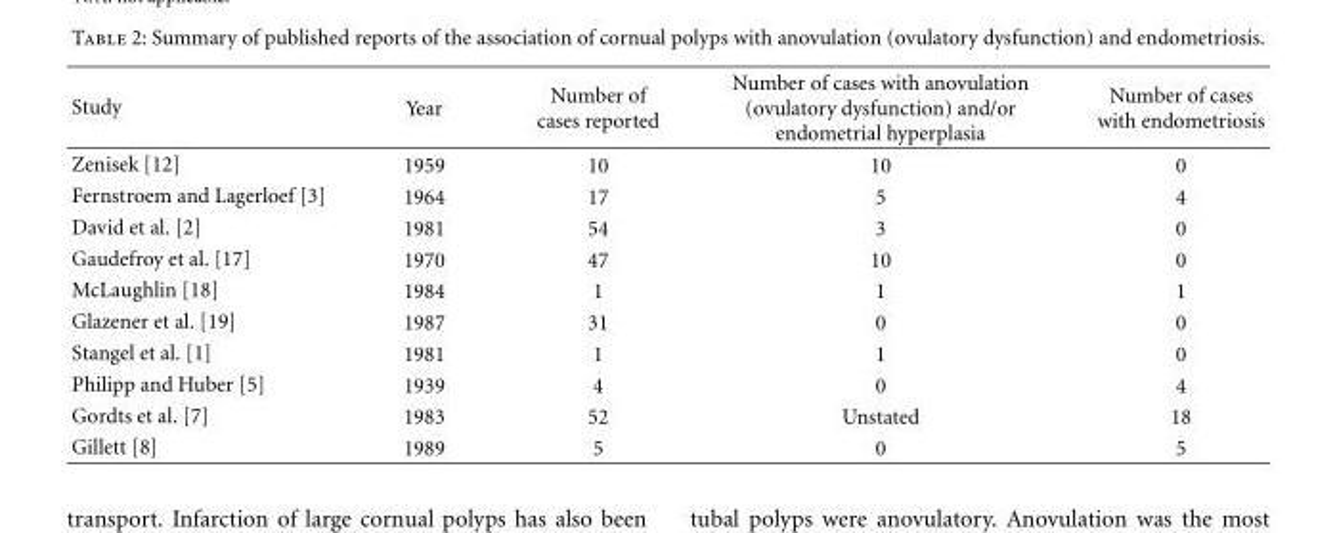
<table><thead><tr><td>Study</td><td>Year</td><td>Number of cases reported</td><td>Number of cases with anovulation (ovulatory dysfunction) and/or endometrial hyperplasia</td><td>Number of cases with endometriosis</td></tr></thead><tbody><tr><td>Zenisek [12]</td><td>1959</td><td>10</td><td>10</td><td>0</td></tr><tr><td>Fernstroem and Lagerloef [3]</td><td>1964</td><td>17</td><td>5</td><td>4</td></tr><tr><td>David et al. [2]</td><td>1981</td><td>54</td><td>3</td><td>0</td></tr><tr><td>Gaudefroy et al. [17]</td><td>1970</td><td>47</td><td>10</td><td>0</td></tr><tr><td>McLaughlin [18]</td><td>1984</td><td>1</td><td>1</td><td>1</td></tr><tr><td>Glazener et al. [19]</td><td>1987</td><td>31</td><td>0</td><td>0</td></tr><tr><td>Stangel et al. [1]</td><td>1981</td><td>1</td><td>1</td><td>0</td></tr><tr><td>Philipp and Huber [5]</td><td>1939</td><td>4</td><td>0</td><td>4</td></tr><tr><td>Gordts et al. [7]</td><td>1983</td><td>52</td><td>Unstated</td><td>18</td></tr><tr><td>Gillett [8]</td><td>1989</td><td>5</td><td>0</td><td>5</td></tr></tbody></table>